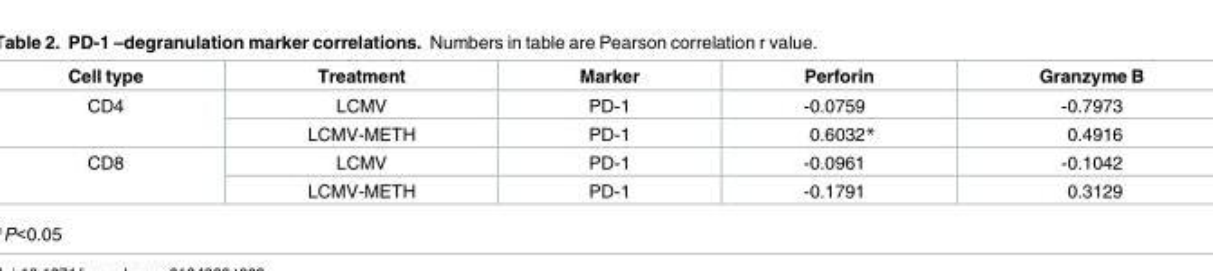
<table><thead><tr><td>Cell type</td><td>Treatment</td><td>Marker</td><td>Perforin</td><td>Granzyme B</td></tr></thead><tbody><tr><td rowspan="2">CD4</td><td>LCMV</td><td>PD-1</td><td>-0.0759</td><td>-0.7973</td></tr><tr><td>LCMV-METH</td><td>PD-1</td><td>0.6032*</td><td>0.4916</td></tr><tr><td rowspan="2">CD8</td><td>LCMV</td><td>PD-1</td><td>-0.0961</td><td>-0.1042</td></tr><tr><td>LCMV-METH</td><td>PD-1</td><td>-0.1791</td><td>0.3129</td></tr></tbody></table>